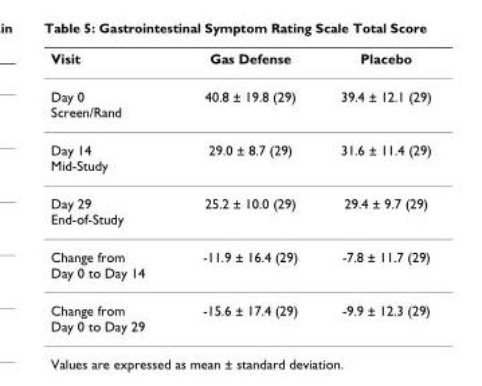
<table><thead><tr><td>Visit</td><td>Gas Defense</td><td>Placebo</td></tr></thead><tbody><tr><td>Day 0 Screen/Rand</td><td>40.8 ± 19.8 (29)</td><td>39.4 ± 12.1 (29)</td></tr><tr><td>Day 14 Mid-Study</td><td>29.0 ± 8.7 (29)</td><td>31.6 ± 11.4 (29)</td></tr><tr><td>Day 29 End-of-Study</td><td>25.2 ± 10.0 (29)</td><td>29.4 ± 9.7 (29)</td></tr><tr><td>Change from Day 0 to Day 14</td><td>-11.9 ± 16.4 (29)</td><td>-7.8 ± 11.7 (29)</td></tr><tr><td>Change from Day 0 to Day 29</td><td>-15.6 ± 17.4 (29)</td><td>-9.9 ± 12.3 (29)</td></tr></tbody></table>